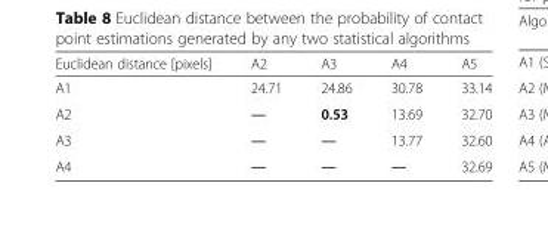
<table><thead><tr><td>Euclidean distance [pixels]</td><td>A2</td><td>A3</td><td>A4</td><td>A5</td></tr></thead><tbody><tr><td>A1</td><td>24.71</td><td>24.86</td><td>30.78</td><td>33.14</td></tr><tr><td>A2</td><td>―</td><td>0.53</td><td>13.69</td><td>32.70</td></tr><tr><td>A3</td><td>―</td><td>―</td><td>13.77</td><td>32.60</td></tr><tr><td>A4</td><td>―</td><td>―</td><td>―</td><td>32.69</td></tr></tbody></table>